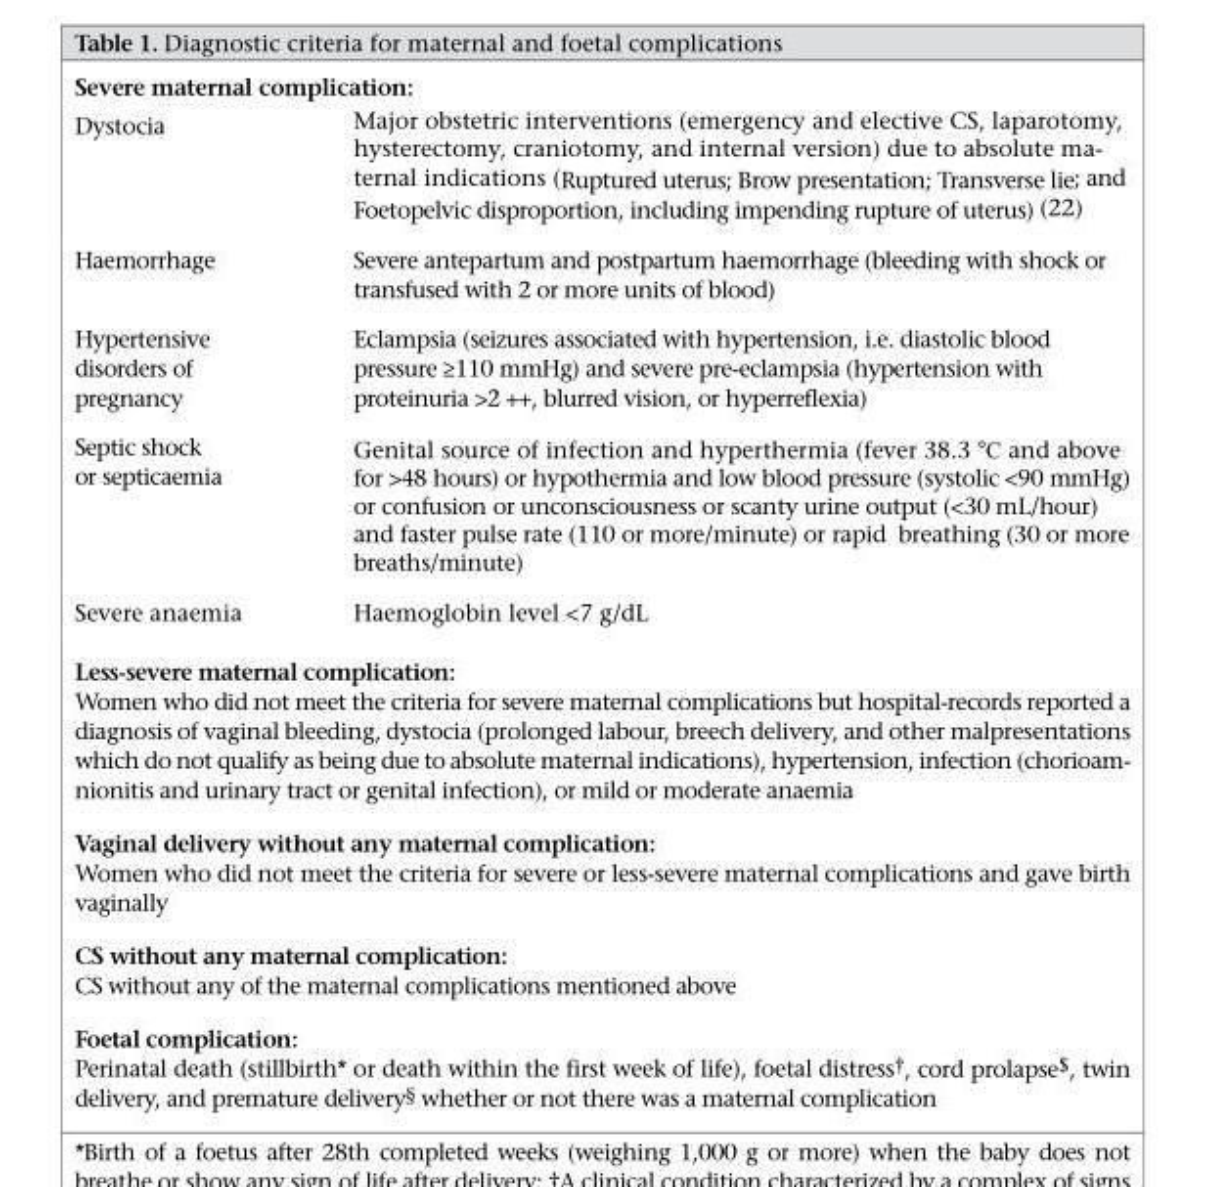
<table><tbody><tr><td colspan="2">Severe maternal complication:</td></tr><tr><td>Dystocia</td><td>Major obstetric interventions (emergency and elective CS, laparotomy, hysterectomy, craniotomy, and internal version) due to absolute ma- ternal indications (Ruptured uterus; Brow presentation; Transverse lie; and Foetopelvic disproportion, including impending rupture of uterus) (22)</td></tr><tr><td>Haemorrhage</td><td>Severe antepartum and postpartum haemorrhage (bleeding with shock or transfused with 2 or more units of blood)</td></tr><tr><td>Hypertensive disorders of pregnancy</td><td>Eclampsia (seizures associated with hypertension, i.e. diastolic blood pressure ≥110 mmHg) and severe pre-eclampsia (hypertension with proteinuria &gt;2 ++, blurred vision, or hyperreflexia)</td></tr><tr><td>Septic shock or septicaemia</td><td>Genital source of infection and hyperthermia (fever 38.3 °C and above for &gt;48 hours) or hypothermia and low blood pressure (systolic &lt;90 mmHg) or confusion or unconsciousness or scanty urine output (&lt;30 mL/hour) and faster pulse rate (110 or more/minute) or rapid breathing (30 or more breaths/minute)</td></tr><tr><td>Severe anaemia</td><td>Haemoglobin level &lt;7 g/dL</td></tr><tr><td colspan="2">Less-severe maternal complication:</td></tr><tr><td colspan="2">Women who did not meet the criteria for severe maternal complications but hospital-records reported a diagnosis of vaginal bleeding, dystocia (prolonged labour, breech delivery, and other malpresentations which do not qualify as being due to absolute maternal indications), hypertension, infection (chorioam- nionitis and urinary tract or genital infection), or mild or moderate anaemia</td></tr><tr><td colspan="2">Vaginal delivery without any maternal complication:</td></tr><tr><td colspan="2">Women who did not meet the criteria for severe or less-severe maternal complications and gave birth vaginally</td></tr><tr><td colspan="2">CS without any maternal complication:</td></tr><tr><td colspan="2">CS without any of the maternal complications mentioned above</td></tr><tr><td colspan="2">Foetal complication:</td></tr><tr><td colspan="2">Perinatal death (stillbirth* or death within the first week of life), foetal distress†, cord prolapse$, twin delivery, and premature delivery§ whether or not there was a maternal complication</td></tr></tbody></table>